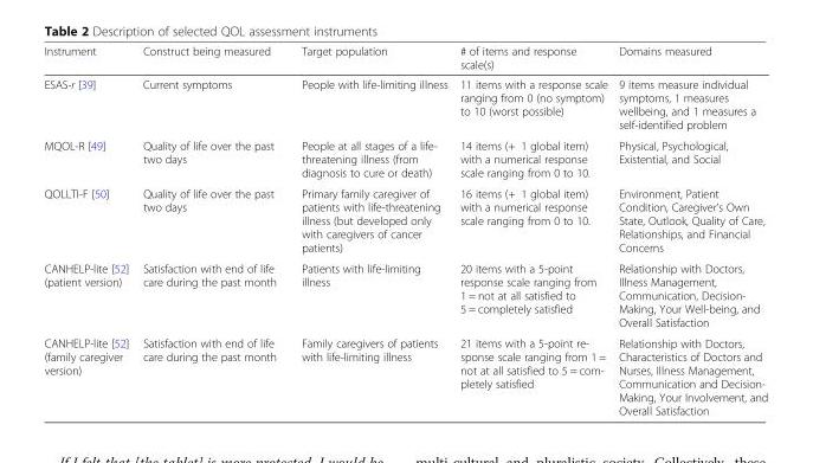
<table><thead><tr><td>Instrument</td><td>Construct being measured</td><td>Target population</td><td># of items and response scale(s)</td><td>Domains measured</td></tr></thead><tbody><tr><td>ESAS-r [39]</td><td>Current symptoms</td><td>People with life-limiting illness</td><td>11 items with a response scale ranging from 0 (no symptom) to 10 (worst possible)</td><td>9 items measure individual symptoms, 1 measures wellbeing, and 1 measures a self-identified problem</td></tr><tr><td>MQOL-R [49]</td><td>Quality of life over the past two days</td><td>People at all stages of a life- threatening illness (from diagnosis to cure or death)</td><td>14 items (+ 1 global item) with a numerical response scale ranging from 0 to 10.</td><td>Physical, Psychological, Existential, and Social</td></tr><tr><td>QOLLTI-F [50]</td><td>Quality of life over the past two days</td><td>Primary family caregiver of patients with life-threatening illness (but developed only with caregivers of cancer patients)</td><td>16 items (+ 1 global item) with a numerical response scale ranging from 0 to 10.</td><td>Environment, Patient Condition, Caregiver’s Own State, Outlook, Quality of Care, Relationships, and Financial Concerns</td></tr><tr><td>CANHELP-lite [52] (patient version)</td><td>Satisfaction with end of life care during the past month</td><td>Patients with life-limiting illness</td><td>20 items with a 5-point response scale ranging from 1 = not at all satisfied to 5 = completely satisfied</td><td>Relationship with Doctors, Illness Management, Communication, Decision- Making, Your Well-being, and Overall Satisfaction</td></tr><tr><td>CANHELP-lite [52] (family caregiver version)</td><td>Satisfaction with end of life care during the past month</td><td>Family caregivers of patients with life-limiting illness</td><td>21 items with a 5-point re- sponse scale ranging from 1 = not at all satisfied to 5 = com- pletely satisfied</td><td>Relationship with Doctors, Characteristics of Doctors and Nurses, Illness Management, Communication and Decision- Making, Your Involvement, and Overall Satisfaction</td></tr></tbody></table>